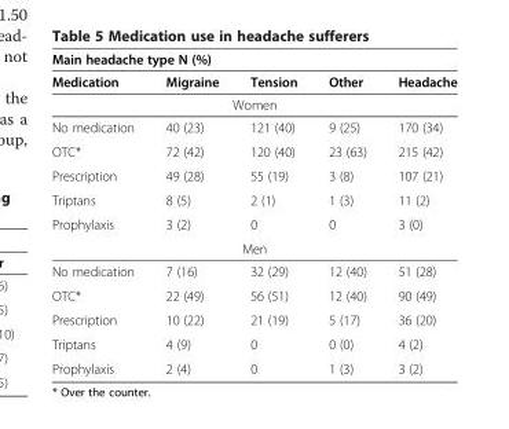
<table><thead><tr><td colspan="5">Main headache type N (%)</td></tr><tr><td>Medication</td><td>Migraine</td><td>Tension</td><td>Other</td><td>Headache</td></tr></thead><tbody><tr><td colspan="5">Women</td></tr><tr><td>No medication</td><td>40 (23)</td><td>121 (40)</td><td>9 (25)</td><td>170 (34)</td></tr><tr><td>OTC*</td><td>72 (42)</td><td>120 (40)</td><td>23 (63)</td><td>215 (42)</td></tr><tr><td>Prescription</td><td>49 (28)</td><td>55 (19)</td><td>3 (8)</td><td>107 (21)</td></tr><tr><td>Triptans</td><td>8 (5)</td><td>2 (1)</td><td>1 (3)</td><td>11 (2)</td></tr><tr><td>Prophylaxis</td><td>3 (2)</td><td>0</td><td>0</td><td>3 (0)</td></tr><tr><td colspan="5">Men</td></tr><tr><td>No medication</td><td>7 (16)</td><td>32 (29)</td><td>12 (40)</td><td>51 (28)</td></tr><tr><td>OTC*</td><td>22 (49)</td><td>56 (51)</td><td>12 (40)</td><td>90 (49)</td></tr><tr><td>Prescription</td><td>10 (22)</td><td>21 (19)</td><td>5 (17)</td><td>36 (20)</td></tr><tr><td>Triptans</td><td>4 (9)</td><td>0</td><td>0 (0)</td><td>4 (2)</td></tr><tr><td>Prophylaxis</td><td>2 (4)</td><td>0</td><td>1 (3)</td><td>3 (2)</td></tr></tbody></table>